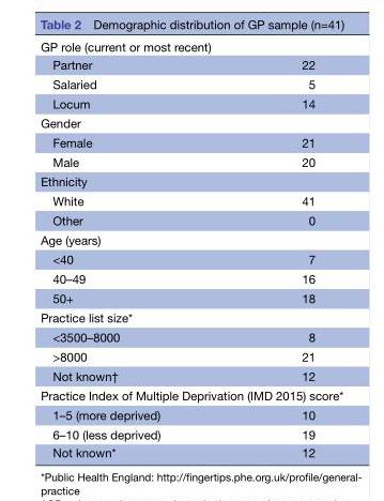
<table><tbody><tr><td colspan="2">GP role (current or most recent)</td></tr><tr><td>Partner</td><td>22</td></tr><tr><td>Salaried</td><td>5</td></tr><tr><td>Locum</td><td>14</td></tr><tr><td colspan="2">Gender</td></tr><tr><td>Female</td><td>21</td></tr><tr><td>Male</td><td>20</td></tr><tr><td colspan="2">Ethnicity</td></tr><tr><td>White</td><td>41</td></tr><tr><td>Other</td><td>0</td></tr><tr><td colspan="2">Age (years)</td></tr><tr><td>&lt;40</td><td>7</td></tr><tr><td>40–49</td><td>16</td></tr><tr><td>50+</td><td>18</td></tr><tr><td colspan="2">Practice list size*</td></tr><tr><td>&lt;3500–8000</td><td>8</td></tr><tr><td>&gt;8000</td><td>21</td></tr><tr><td>Not known†</td><td>12</td></tr><tr><td colspan="2">Practice Index of Multiple Deprivation (IMD 2015) score*</td></tr><tr><td>1–5 (more deprived)</td><td>10</td></tr><tr><td>6–10 (less deprived)</td><td>19</td></tr><tr><td>Not known*</td><td>12</td></tr></tbody></table>